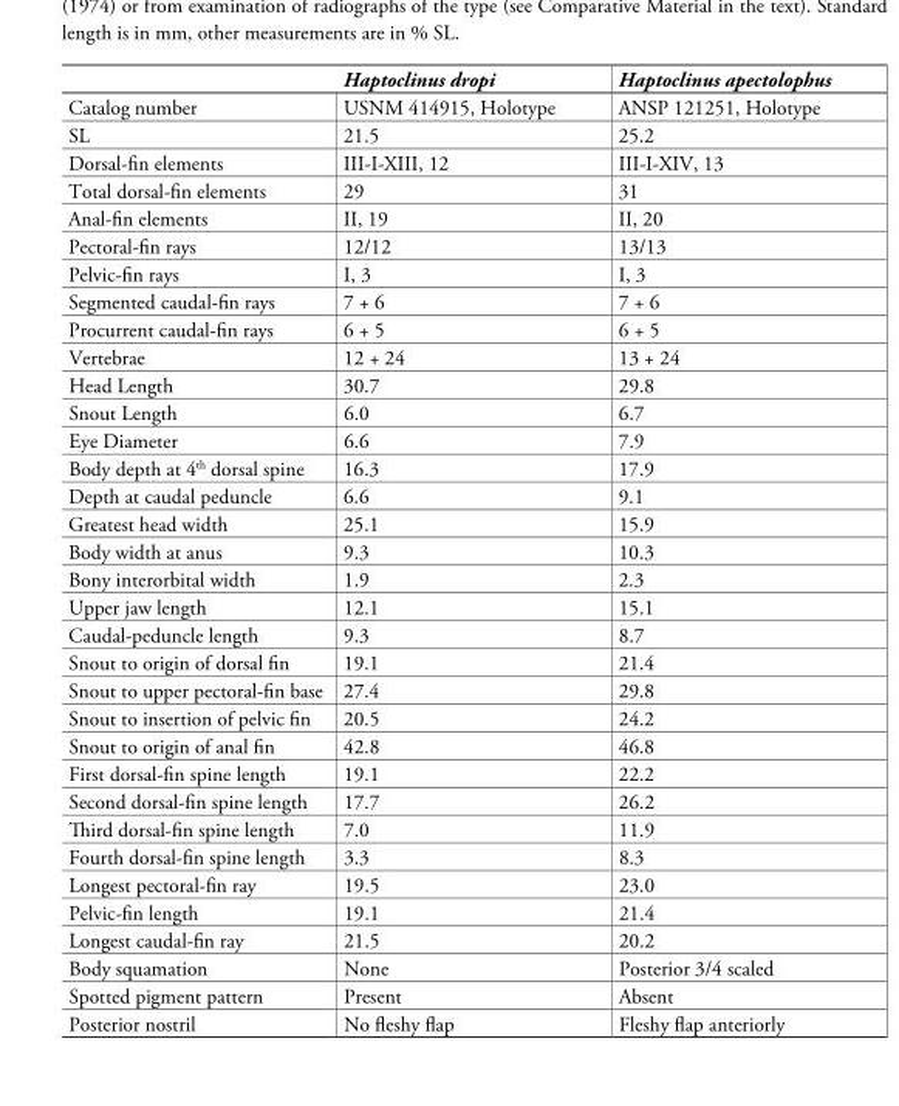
<table><thead><tr><td></td><td>Haptoclinus dropi</td><td>Haptoclinus apectolophus</td></tr></thead><tbody><tr><td>Catalog number</td><td>USNM 414915, Holotype</td><td>ANSP 121251, Holotype</td></tr><tr><td>SL</td><td>21.5</td><td>25.2</td></tr><tr><td>Dorsal-fin elements</td><td>III-I-XIII, 12</td><td>III-I-XIV, 13</td></tr><tr><td>Total dorsal-fin elements</td><td>29</td><td>31</td></tr><tr><td>Anal-fin elements</td><td>II, 19</td><td>II, 20</td></tr><tr><td>Pectoral-fin rays</td><td>12/12</td><td>13/13</td></tr><tr><td>Pelvic-fin rays</td><td>I, 3</td><td>I, 3</td></tr><tr><td>Segmented caudal-fin rays</td><td>7 + 6</td><td>7 + 6</td></tr><tr><td>Procurrent caudal-fin rays</td><td>6 + 5</td><td>6 + 5</td></tr><tr><td>Vertebrae</td><td>12 + 24</td><td>13 + 24</td></tr><tr><td>Head Length</td><td>30.7</td><td>29.8</td></tr><tr><td>Snout Length</td><td>6.0</td><td>6.7</td></tr><tr><td>Eye Diameter</td><td>6.6</td><td>7.9</td></tr><tr><td>Body depth at 4<sup>th</sup> dorsal spine</td><td>16.3</td><td>17.9</td></tr><tr><td>Depth at caudal peduncle</td><td>6.6</td><td>9.1</td></tr><tr><td>Greatest head width</td><td>25.1</td><td>15.9</td></tr><tr><td>Body width at anus</td><td>9.3</td><td>10.3</td></tr><tr><td>Bony interorbital width</td><td>1.9</td><td>2.3</td></tr><tr><td>Upper jaw length</td><td>12.1</td><td>15.1</td></tr><tr><td>Caudal-peduncle length</td><td>9.3</td><td>8.7</td></tr><tr><td>Snout to origin of dorsal fin</td><td>19.1</td><td>21.4</td></tr><tr><td>Snout to upper pectoral-fin base</td><td>27.4</td><td>29.8</td></tr><tr><td>Snout to insertion of pelvic fin</td><td>20.5</td><td>24.2</td></tr><tr><td>Snout to origin of anal fin</td><td>42.8</td><td>46.8</td></tr><tr><td>First dorsal-fin spine length</td><td>19.1</td><td>22.2</td></tr><tr><td>Second dorsal-fin spine length</td><td>17.7</td><td>26.2</td></tr><tr><td>Third dorsal-fin spine length</td><td>7.0</td><td>11.9</td></tr><tr><td>Fourth dorsal-fin spine length</td><td>3.3</td><td>8.3</td></tr><tr><td>Longest pectoral-fin ray</td><td>19.5</td><td>23.0</td></tr><tr><td>Pelvic-fin length</td><td>19.1</td><td>21.4</td></tr><tr><td>Longest caudal-fin ray</td><td>21.5</td><td>20.2</td></tr><tr><td>Body squamation</td><td>None</td><td>Posterior 3/4 scaled</td></tr><tr><td>Spotted pigment pattern</td><td>Present</td><td>Absent</td></tr><tr><td>Posterior nostril</td><td>No fleshy flap</td><td>Fleshy flap anteriorly</td></tr></tbody></table>